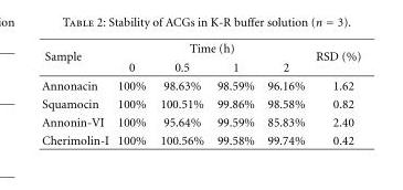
<table><thead><tr><td rowspan="2">Sample</td><td colspan="4">Time (h)</td><td rowspan="2">RSD (%)</td></tr><tr><td>0</td><td>0.5</td><td>1</td><td>2</td></tr></thead><tbody><tr><td>Annonacin</td><td>100%</td><td>98.63%</td><td>98.59%</td><td>96.16%</td><td>1.62</td></tr><tr><td>Squamocin</td><td>100%</td><td>100.51%</td><td>99.86%</td><td>98.58%</td><td>0.82</td></tr><tr><td>Annonin-VI</td><td>100%</td><td>95.64%</td><td>99.59%</td><td>85.83%</td><td>2.40</td></tr><tr><td>Cherimolin-I</td><td>100%</td><td>100.56%</td><td>99.58%</td><td>99.74%</td><td>0.42</td></tr></tbody></table>